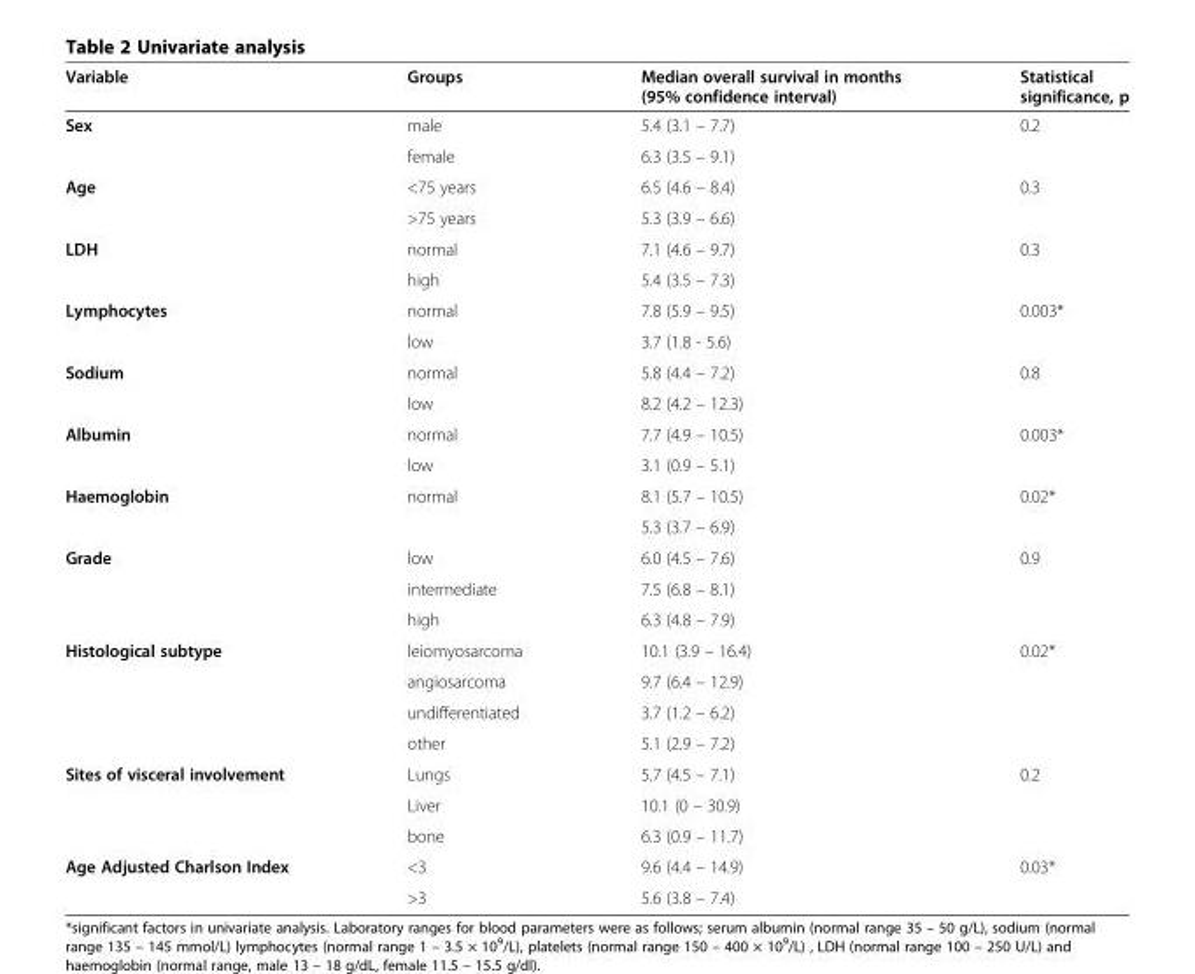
<table><thead><tr><td>Variable</td><td>Groups</td><td>Median overall survival in months (95% confidence interval)</td><td>Statistical significance, p</td></tr></thead><tbody><tr><td rowspan="2">Sex</td><td>male</td><td>5.4 (3.1 – 7.7)</td><td rowspan="2">0.2</td></tr><tr><td>female</td><td>6.3 (3.5 – 9.1)</td></tr><tr><td rowspan="2">Age</td><td>&lt;75 years</td><td>6.5 (4.6 – 8.4)</td><td rowspan="2">0.3</td></tr><tr><td>&gt;75 years</td><td>5.3 (3.9 – 6.6)</td></tr><tr><td rowspan="2">LDH</td><td>normal</td><td>7.1 (4.6 – 9.7)</td><td rowspan="2">0.3</td></tr><tr><td>high</td><td>5.4 (3.5 – 7.3)</td></tr><tr><td rowspan="2">Lymphocytes</td><td>normal</td><td>7.8 (5.9 – 9.5)</td><td rowspan="2">0.003*</td></tr><tr><td>low</td><td>3.7 (1.8 - 5.6)</td></tr><tr><td rowspan="2">Sodium</td><td>normal</td><td>5.8 (4.4 – 7.2)</td><td rowspan="2">0.8</td></tr><tr><td>low</td><td>8.2 (4.2 – 12.3)</td></tr><tr><td rowspan="2">Albumin</td><td>normal</td><td>7.7 (4.9 – 10.5)</td><td rowspan="2">0.003*</td></tr><tr><td>low</td><td>3.1 (0.9 – 5.1)</td></tr><tr><td rowspan="2">Haemoglobin</td><td rowspan="2">normal</td><td>8.1 (5.7 – 10.5)</td><td rowspan="2">0.02*</td></tr><tr><td>5.3 (3.7 – 6.9)</td></tr><tr><td rowspan="3">Grade</td><td>low</td><td>6.0 (4.5 – 7.6)</td><td rowspan="3">0.9</td></tr><tr><td>intermediate</td><td>7.5 (6.8 – 8.1)</td></tr><tr><td>high</td><td>6.3 (4.8 – 7.9)</td></tr><tr><td rowspan="4">Histological subtype</td><td>leiomyosarcoma</td><td>10.1 (3.9 – 16.4)</td><td rowspan="4">0.02*</td></tr><tr><td>angiosarcoma</td><td>9.7 (6.4 – 12.9)</td></tr><tr><td>undifferentiated</td><td>3.7 (1.2 – 6.2)</td></tr><tr><td>other</td><td>5.1 (2.9 – 7.2)</td></tr><tr><td rowspan="3">Sites of visceral involvement</td><td>Lungs</td><td>5.7 (4.5 – 7.1)</td><td rowspan="3">0.2</td></tr><tr><td>Liver</td><td>10.1 (0 – 30.9)</td></tr><tr><td>bone</td><td>6.3 (0.9 – 11.7)</td></tr><tr><td rowspan="2">Age Adjusted Charlson Index</td><td>&lt;3</td><td>9.6 (4.4 – 14.9)</td><td rowspan="2">0.03*</td></tr><tr><td>&gt;3</td><td>5.6 (3.8 – 7.4)</td></tr></tbody></table>